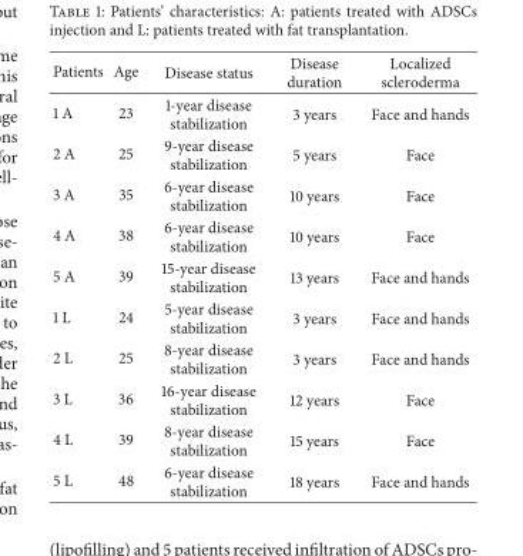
<table><thead><tr><td>Patients</td><td>Age</td><td>Disease status</td><td>Disease duration</td><td>Localized scleroderma</td></tr></thead><tbody><tr><td>1 A</td><td>23</td><td>1-year disease stabilization</td><td>3 years</td><td>Face and hands</td></tr><tr><td>2 A</td><td>25</td><td>9-year disease stabilization</td><td>5 years</td><td>Face</td></tr><tr><td>3 A</td><td>35</td><td>6-year disease stabilization</td><td>10 years</td><td>Face</td></tr><tr><td>4 A</td><td>38</td><td>6-year disease stabilization</td><td>10 years</td><td>Face</td></tr><tr><td>5 A</td><td>39</td><td>15-year disease stabilization</td><td>13 years</td><td>Face and hands</td></tr><tr><td>1 L</td><td>24</td><td>5-year disease stabilization</td><td>3 years</td><td>Face and hands</td></tr><tr><td>2 L</td><td>25</td><td>8-year disease stabilization</td><td>3 years</td><td>Face and hands</td></tr><tr><td>3 L</td><td>36</td><td>16-year disease stabilization</td><td>12 years</td><td>Face</td></tr><tr><td>4 L</td><td>39</td><td>8-year disease stabilization</td><td>15 years</td><td>Face</td></tr><tr><td>5 L</td><td>48</td><td>6-year disease stabilization</td><td>18 years</td><td>Face and hands</td></tr></tbody></table>